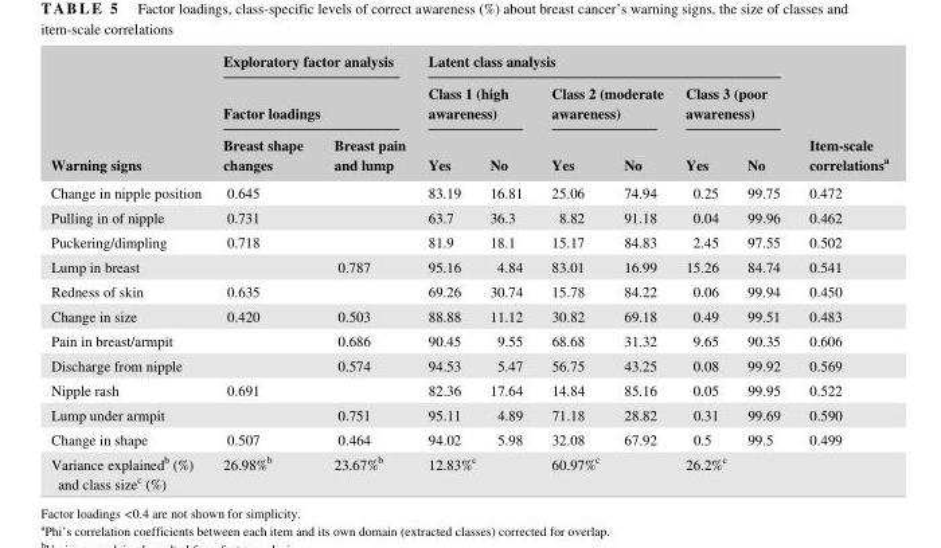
<table><thead><tr><td rowspan="3">Warning signs</td><td rowspan="2" colspan="2">Exploratory factor analysis Factor loadings</td><td colspan="6">Latent class analysis</td><td rowspan="3">Item- scale correlations<sup>a</sup></td></tr><tr><td colspan="2">Class 1 (high awareness)</td><td colspan="2">Class 2 (moderate awareness)</td><td colspan="2">Class 3 (poor awareness)</td></tr><tr><td>Breast shape changes</td><td>Breast pain and lump</td><td>Yes</td><td>No</td><td>Yes</td><td>No</td><td>Yes</td><td>No</td></tr></thead><tbody><tr><td>Change in nipple position</td><td>0.645</td><td></td><td>83.19</td><td>16.81</td><td>25.06</td><td>74.94</td><td>0.25</td><td>99.75</td><td>0.472</td></tr><tr><td>Pulling in of nipple</td><td>0.731</td><td></td><td>63.7</td><td>36.3</td><td>8.82</td><td>91.18</td><td>0.04</td><td>99.96</td><td>0.462</td></tr><tr><td>Puckering/dimpling</td><td>0.718</td><td></td><td>81.9</td><td>18.1</td><td>15.17</td><td>84.83</td><td>2.45</td><td>97.55</td><td>0.502</td></tr><tr><td>Lump in breast</td><td></td><td>0.787</td><td>95.16</td><td>4.84</td><td>83.01</td><td>16.99</td><td>15.26</td><td>84.74</td><td>0.541</td></tr><tr><td>Redness of skin</td><td>0.635</td><td></td><td>69.26</td><td>30.74</td><td>15.78</td><td>84.22</td><td>0.06</td><td>99.94</td><td>0.450</td></tr><tr><td>Change in size</td><td>0.420</td><td>0.503</td><td>88.88</td><td>11.12</td><td>30.82</td><td>69.18</td><td>0.49</td><td>99.51</td><td>0.483</td></tr><tr><td>Pain in breast/armpit</td><td></td><td>0.686</td><td>90.45</td><td>9.55</td><td>68.68</td><td>31.32</td><td>9.65</td><td>90.35</td><td>0.606</td></tr><tr><td>Discharge from nipple</td><td></td><td>0.574</td><td>94.53</td><td>5.47</td><td>56.75</td><td>43.25</td><td>0.08</td><td>99.92</td><td>0.569</td></tr><tr><td>Nipple rash</td><td>0.691</td><td></td><td>82.36</td><td>17.64</td><td>14.84</td><td>85.16</td><td>0.05</td><td>99.95</td><td>0.522</td></tr><tr><td>Lump under armpit</td><td></td><td>0.751</td><td>95.11</td><td>4.89</td><td>71.18</td><td>28.82</td><td>0.31</td><td>99.69</td><td>0.590</td></tr><tr><td>Change in shape</td><td>0.507</td><td>0.464</td><td>94.02</td><td>5.98</td><td>32.08</td><td>67.92</td><td>0.5</td><td>99.5</td><td>0.499</td></tr><tr><td>Variance explained<sup>b</sup> (%) and class size<sup>c</sup> (%)</td><td>26.98%<sup>b</sup></td><td>23.67%<sup>b</sup></td><td colspan="2">12.83%<sup>c</sup></td><td colspan="2">60.97%<sup>c</sup></td><td colspan="2">26.2%<sup>c</sup></td><td></td></tr></tbody></table>